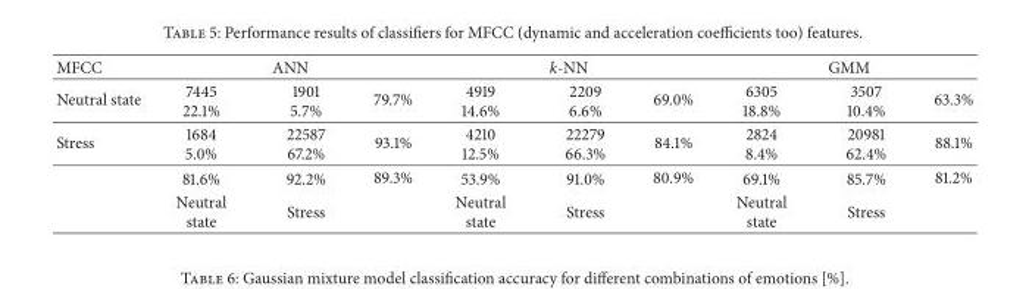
<table><thead><tr><td rowspan="2">MFCC Neutral state</td><td colspan="3">ANN</td><td colspan="3">k-NN</td><td colspan="3">GMM</td></tr><tr><td>7445 22.1%</td><td>1901 5.7%</td><td>79.7%</td><td>4919 14.6%</td><td>2209 6.6%</td><td>69.0%</td><td>6305 18.8%</td><td>3507 10.4%</td><td>63.3%</td></tr></thead><tbody><tr><td rowspan="3">Stress</td><td>1684 5.0%</td><td>22587 67.2%</td><td>93.1%</td><td>4210 12.5%</td><td>22279 66.3%</td><td>84.1%</td><td>2824 8.4%</td><td>20981 62.4%</td><td>88.1%</td></tr><tr><td>81.6%</td><td>92.2%</td><td>89.3%</td><td>53.9%</td><td>91.0%</td><td>80.9%</td><td>69.1%</td><td>85.7%</td><td>81.2%</td></tr><tr><td>Neutral state</td><td>Stress</td><td></td><td>Neutral state</td><td>Stress</td><td></td><td>Neutral state</td><td>Stress</td><td></td></tr></tbody></table>